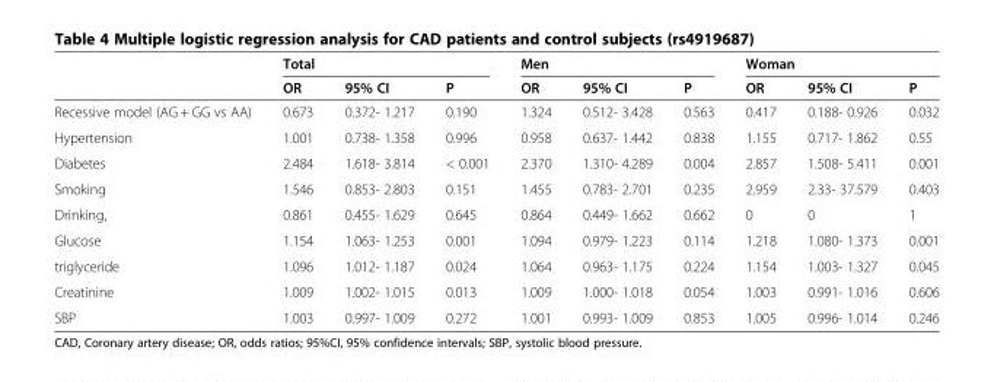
<table><thead><tr><td rowspan="2"></td><td colspan="3">Total</td><td colspan="3">Men</td><td colspan="3">Woman</td></tr><tr><td>OR</td><td>95% CI</td><td>P</td><td>OR</td><td>95% CI</td><td>P</td><td>OR</td><td>95% CI</td><td>P</td></tr></thead><tbody><tr><td>Recessive model (AG + GG vs AA)</td><td>0.673</td><td>0.372- 1.217</td><td>0.190</td><td>1.324</td><td>0.512- 3.428</td><td>0.563</td><td>0.417</td><td>0.188- 0.926</td><td>0.032</td></tr><tr><td>Hypertension</td><td>1.001</td><td>0.738- 1.358</td><td>0.996</td><td>0.958</td><td>0.637- 1.442</td><td>0.838</td><td>1.155</td><td>0.717- 1.862</td><td>0.55</td></tr><tr><td>Diabetes</td><td>2.484</td><td>1.618- 3.814</td><td>&lt; 0.001</td><td>2.370</td><td>1.310- 4.289</td><td>0.004</td><td>2.857</td><td>1.508- 5.411</td><td>0.001</td></tr><tr><td>Smoking</td><td>1.546</td><td>0.853- 2.803</td><td>0.151</td><td>1.455</td><td>0.783- 2.701</td><td>0.235</td><td>2.959</td><td>2.33- 37.579</td><td>0.403</td></tr><tr><td>Drinking,</td><td>0.861</td><td>0.455- 1.629</td><td>0.645</td><td>0.864</td><td>0.449- 1.662</td><td>0.662</td><td>0</td><td>0</td><td>1</td></tr><tr><td>Glucose</td><td>1.154</td><td>1.063- 1.253</td><td>0.001</td><td>1.094</td><td>0.979- 1.223</td><td>0.114</td><td>1.218</td><td>1.080- 1.373</td><td>0.001</td></tr><tr><td>triglyceride</td><td>1.096</td><td>1.012- 1.187</td><td>0.024</td><td>1.064</td><td>0.963- 1.175</td><td>0.224</td><td>1.154</td><td>1.003- 1.327</td><td>0.045</td></tr><tr><td>Creatinine</td><td>1.009</td><td>1.002- 1.015</td><td>0.013</td><td>1.009</td><td>1.000- 1.018</td><td>0.054</td><td>1.003</td><td>0.991- 1.016</td><td>0.606</td></tr><tr><td>SBP</td><td>1.003</td><td>0.997- 1.009</td><td>0.272</td><td>1.001</td><td>0.993- 1.009</td><td>0.853</td><td>1.005</td><td>0.996- 1.014</td><td>0.246</td></tr></tbody></table>